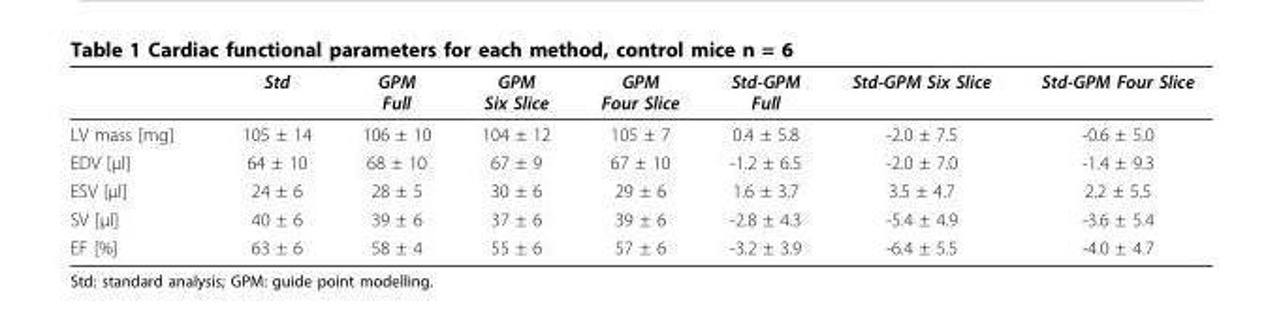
<table><thead><tr><td></td><td>Std</td><td>GPM Full</td><td>GPM Six Slice</td><td>GPM Four Slice</td><td>Std-GPM Full</td><td>Std-GPM Six Slice</td><td>Std-GPM Four Slice</td></tr></thead><tbody><tr><td>LV mass [mg]</td><td>105 ± 14</td><td>106 ± 10</td><td>104 ± 12</td><td>105 ± 7</td><td>0.4 ± 5.8</td><td>-2.0 ± 7.5</td><td>-0.6 ± 5.0</td></tr><tr><td>EDV [μl]</td><td>64 ± 10</td><td>68 ± 10</td><td>67 ± 9</td><td>67 ± 10</td><td>-1.2 ± 6.5</td><td>-2.0 ± 7.0</td><td>-1.4 ± 9.3</td></tr><tr><td>ESV [μl]</td><td>24 ± 6</td><td>28 ± 5</td><td>30 ± 6</td><td>29 ± 6</td><td>1.6 ± 3.7</td><td>3.5 ± 4.7</td><td>2.2 ± 5.5</td></tr><tr><td>SV [μl]</td><td>40 ± 6</td><td>39 ± 6</td><td>37 ± 6</td><td>39 ± 6</td><td>-2.8 ± 4.3</td><td>-5.4 ± 4.9</td><td>-3.6 ± 5.4</td></tr><tr><td>EF [%]</td><td>63 ± 6</td><td>58 ± 4</td><td>55 ± 6</td><td>57 ± 6</td><td>-3.2 ± 3.9</td><td>-6.4 ± 5.5</td><td>-4.0 ± 4.7</td></tr></tbody></table>